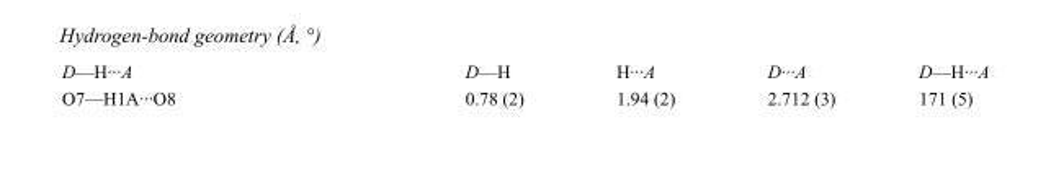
<table><tbody><tr><td>D—H···A</td><td>D—H</td><td>H···A</td><td>D···A</td><td>D—H···A</td></tr><tr><td>O7—H1A···O8</td><td>0.78 (2)</td><td>1.94 (2)</td><td>2.712 (3)</td><td>171 (5)</td></tr></tbody></table>